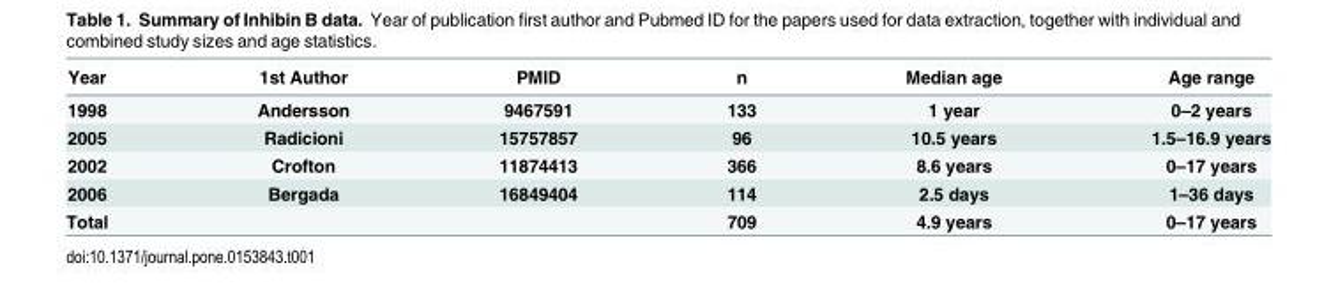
<table><thead><tr><td>Year</td><td>1st Author</td><td>PMID</td><td>n</td><td>Median age</td><td>Age range</td></tr></thead><tbody><tr><td>1998</td><td>Andersson</td><td>9467591</td><td>133</td><td>1 year</td><td>0–2 years</td></tr><tr><td>2005</td><td>Radicioni</td><td>15757857</td><td>96</td><td>10.5 years</td><td>1.5–16.9 years</td></tr><tr><td>2002</td><td>Crofton</td><td>11874413</td><td>366</td><td>8.6 years</td><td>0–17 years</td></tr><tr><td>2006</td><td>Bergada</td><td>16849404</td><td>114</td><td>2.5 days</td><td>1–36 days</td></tr><tr><td>Total</td><td></td><td></td><td>709</td><td>4.9 years</td><td>0–17 years</td></tr></tbody></table>